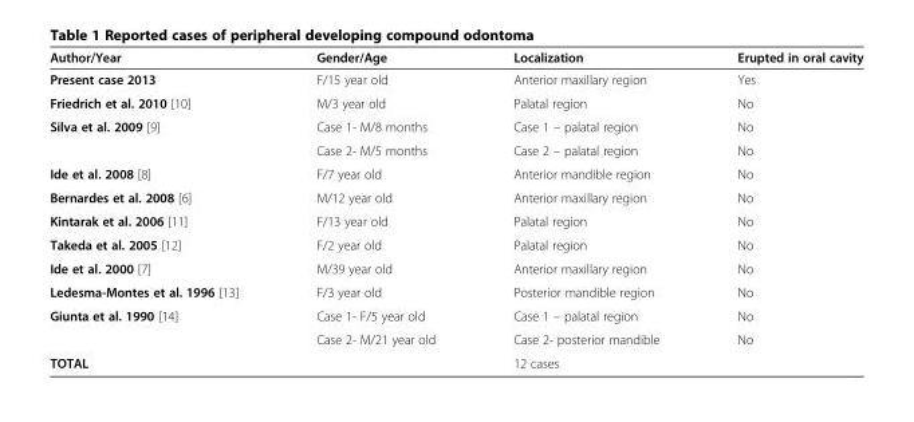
<table><thead><tr><td>Author/Year</td><td>Gender/Age</td><td>Localization</td><td>Erupted in oral cavity</td></tr></thead><tbody><tr><td>Present case 2013</td><td>F/15 year old</td><td>Anterior maxillary region</td><td>Yes</td></tr><tr><td>Friedrich et al. 2010 [10]</td><td>M/3 year old</td><td>Palatal region</td><td>No</td></tr><tr><td rowspan="2">Silva et al. 2009 [9]</td><td>Case 1- M/8 months</td><td>Case 1 – palatal region</td><td>No</td></tr><tr><td>Case 2- M/5 months</td><td>Case 2 – palatal region</td><td>No</td></tr><tr><td>Ide et al. 2008 [8]</td><td>F/7 year old</td><td>Anterior mandible region</td><td>No</td></tr><tr><td>Bernardes et al. 2008 [6]</td><td>M/12 year old</td><td>Anterior maxillary region</td><td>No</td></tr><tr><td>Kintarak et al. 2006 [11]</td><td>F/13 year old</td><td>Palatal region</td><td>No</td></tr><tr><td>Takeda et al. 2005 [12]</td><td>F/2 year old</td><td>Palatal region</td><td>No</td></tr><tr><td>Ide et al. 2000 [7]</td><td>M/39 year old</td><td>Anterior maxillary region</td><td>No</td></tr><tr><td>Ledesma-Montes et al. 1996 [13]</td><td>F/3 year old</td><td>Posterior mandible region</td><td>No</td></tr><tr><td rowspan="2">Giunta et al. 1990 [14]</td><td>Case 1- F/5 year old</td><td>Case 1 – palatal region</td><td>No</td></tr><tr><td>Case 2- M/21 year old</td><td>Case 2- posterior mandible</td><td>No</td></tr><tr><td>TOTAL</td><td></td><td>12 cases</td><td></td></tr></tbody></table>